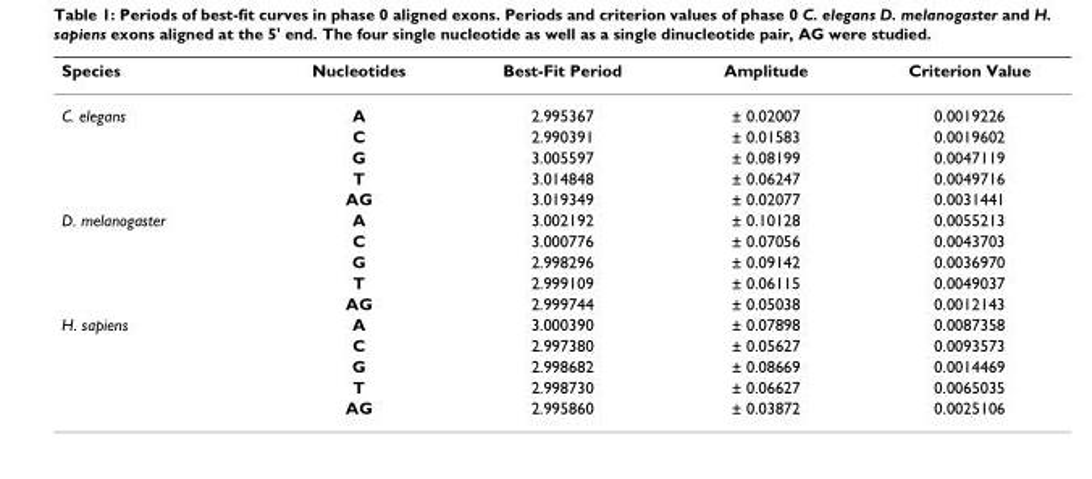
<table><thead><tr><td>Species</td><td>Nucleotides</td><td>Best-Fit Period</td><td>Amplitude</td><td>Criterion Value</td></tr></thead><tbody><tr><td rowspan="5">C. elegans</td><td>A</td><td>2.995367</td><td>± 0.02007</td><td>0.0019226</td></tr><tr><td>C</td><td>2.990391</td><td>± 0.01583</td><td>0.0019602</td></tr><tr><td>G</td><td>3.005597</td><td>± 0.08199</td><td>0.0047119</td></tr><tr><td>T</td><td>3.014848</td><td>± 0.06247</td><td>0.0049716</td></tr><tr><td>AG</td><td>3.019349</td><td>± 0.02077</td><td>0.0031441</td></tr><tr><td rowspan="5">D. melanogaster</td><td>A</td><td>3.002192</td><td>± 0.10128</td><td>0.0055213</td></tr><tr><td>C</td><td>3.000776</td><td>± 0.07056</td><td>0.0043703</td></tr><tr><td>G</td><td>2.998296</td><td>± 0.09142</td><td>0.0036970</td></tr><tr><td>T</td><td>2.999109</td><td>± 0.06115</td><td>0.0049037</td></tr><tr><td>AG</td><td>2.999744</td><td>± 0.05038</td><td>0.0012143</td></tr><tr><td rowspan="5">H. sapiens</td><td>A</td><td>3.000390</td><td>± 0.07898</td><td>0.0087358</td></tr><tr><td>C</td><td>2.997380</td><td>± 0.05627</td><td>0.0093573</td></tr><tr><td>G</td><td>2.998682</td><td>± 0.08669</td><td>0.0014469</td></tr><tr><td>T</td><td>2.998730</td><td>± 0.06627</td><td>0.0065035</td></tr><tr><td>AG</td><td>2.995860</td><td>± 0.03872</td><td>0.0025106</td></tr></tbody></table>